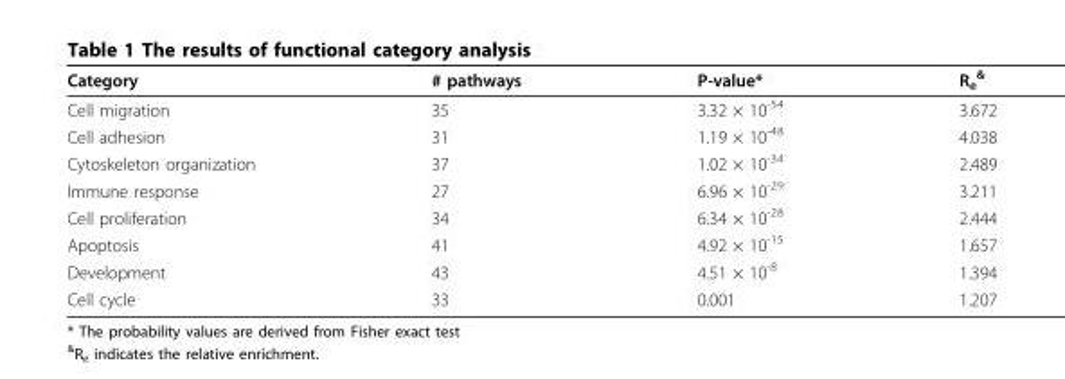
<table><thead><tr><td>Category</td><td># pathways</td><td>P-value*</td><td>R<sub>e</sub> <sup>&amp;</sup></td></tr></thead><tbody><tr><td>Cell migration</td><td>35</td><td>3.32 × 10<sup>-54</sup></td><td>3.672</td></tr><tr><td>Cell adhesion</td><td>31</td><td>1.19 × 10<sup>-48</sup></td><td>4.038</td></tr><tr><td>Cytoskeleton organization</td><td>37</td><td>1.02 × 10<sup>-34</sup></td><td>2.489</td></tr><tr><td>Immune response</td><td>27</td><td>6.96 × 10<sup>-29</sup></td><td>3.211</td></tr><tr><td>Cell proliferation</td><td>34</td><td>6.34 × 10<sup>-28</sup></td><td>2.444</td></tr><tr><td>Apoptosis</td><td>41</td><td>4.92 × 10<sup>-15</sup></td><td>1.657</td></tr><tr><td>Development</td><td>43</td><td>4.51 × 10<sup>-8</sup></td><td>1.394</td></tr><tr><td>Cell cycle</td><td>33</td><td>0.001</td><td>1.207</td></tr></tbody></table>